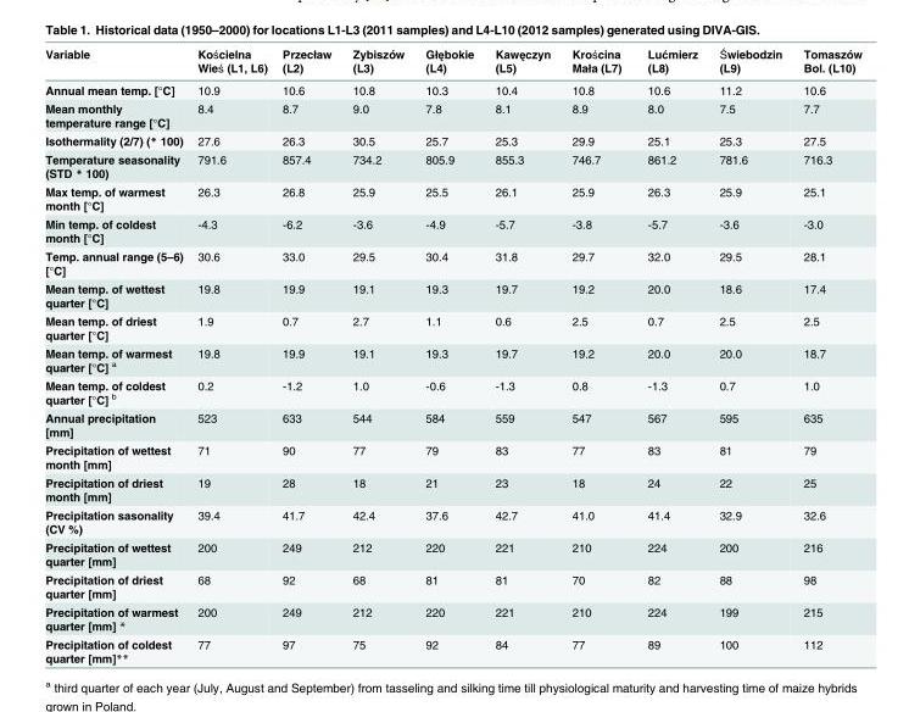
<table><thead><tr><td>Variable</td><td>Kościelna Wieś (L1, L6)</td><td>Przecław (L2)</td><td>Zybiszów (L3)</td><td>Głębokie (L4)</td><td>Kawęczyn (L5)</td><td>Krościna Mała (L7)</td><td>Lućmierz (L8)</td><td>Świebodzin (L9)</td><td>Tomaszów Bol. (L10)</td></tr></thead><tbody><tr><td>Annual mean temp. [°C]</td><td>10.9</td><td>10.6</td><td>10.8</td><td>10.3</td><td>10.4</td><td>10.8</td><td>10.6</td><td>11.2</td><td>10.6</td></tr><tr><td>Mean monthly temperature range [°C]</td><td>8.4</td><td>8.7</td><td>9.0</td><td>7.8</td><td>8.1</td><td>8.9</td><td>8.0</td><td>7.5</td><td>7.7</td></tr><tr><td>Isothermality (2/7) (* 100)</td><td>27.6</td><td>26.3</td><td>30.5</td><td>25.7</td><td>25.3</td><td>29.9</td><td>25.1</td><td>25.3</td><td>27.5</td></tr><tr><td>Temperature seasonality (STD * 100)</td><td>791.6</td><td>857.4</td><td>734.2</td><td>805.9</td><td>855.3</td><td>746.7</td><td>861.2</td><td>781.6</td><td>716.3</td></tr><tr><td>Max temp. of warmest month [°C]</td><td>26.3</td><td>26.8</td><td>25.9</td><td>25.5</td><td>26.1</td><td>25.9</td><td>26.3</td><td>25.9</td><td>25.1</td></tr><tr><td>Min temp. of coldest month [°C]</td><td>-4.3</td><td>-6.2</td><td>-3.6</td><td>-4.9</td><td>-5.7</td><td>-3.8</td><td>-5.7</td><td>-3.6</td><td>-3.0</td></tr><tr><td>Temp. annual range (5–6) [°C]</td><td>30.6</td><td>33.0</td><td>29.5</td><td>30.4</td><td>31.8</td><td>29.7</td><td>32.0</td><td>29.5</td><td>28.1</td></tr><tr><td>Mean temp. of wettest quarter [°C]</td><td>19.8</td><td>19.9</td><td>19.1</td><td>19.3</td><td>19.7</td><td>19.2</td><td>20.0</td><td>18.6</td><td>17.4</td></tr><tr><td>Mean temp. of driest quarter [°C]</td><td>1.9</td><td>0.7</td><td>2.7</td><td>1.1</td><td>0.6</td><td>2.5</td><td>0.7</td><td>2.5</td><td>2.5</td></tr><tr><td>Mean temp. of warmest quarter [°C] <sup>a</sup></td><td>19.8</td><td>19.9</td><td>19.1</td><td>19.3</td><td>19.7</td><td>19.2</td><td>20.0</td><td>20.0</td><td>18.7</td></tr><tr><td>Mean temp. of coldest quarter [°C] <sup>b</sup></td><td>0.2</td><td>-1.2</td><td>1.0</td><td>-0.6</td><td>-1.3</td><td>0.8</td><td>-1.3</td><td>0.7</td><td>1.0</td></tr><tr><td>Annual precipitation [mm]</td><td>523</td><td>633</td><td>544</td><td>584</td><td>559</td><td>547</td><td>567</td><td>595</td><td>635</td></tr><tr><td>Precipitation of wettest month [mm]</td><td>71</td><td>90</td><td>77</td><td>79</td><td>83</td><td>77</td><td>83</td><td>81</td><td>79</td></tr><tr><td>Precipitation of driest month [mm]</td><td>19</td><td>28</td><td>18</td><td>21</td><td>23</td><td>18</td><td>24</td><td>22</td><td>25</td></tr><tr><td>Precipitation sasonality (CV %)</td><td>39.4</td><td>41.7</td><td>42.4</td><td>37.6</td><td>42.7</td><td>41.0</td><td>41.4</td><td>32.9</td><td>32.6</td></tr><tr><td>Precipitation of wettest quarter [mm]</td><td>200</td><td>249</td><td>212</td><td>220</td><td>221</td><td>210</td><td>224</td><td>200</td><td>216</td></tr><tr><td>Precipitation of driest quarter [mm]</td><td>68</td><td>92</td><td>68</td><td>81</td><td>81</td><td>70</td><td>82</td><td>88</td><td>98</td></tr><tr><td>Precipitation of warmest quarter [mm] *</td><td>200</td><td>249</td><td>212</td><td>220</td><td>221</td><td>210</td><td>224</td><td>199</td><td>215</td></tr><tr><td>Precipitation of coldest quarter [mm]**</td><td>77</td><td>97</td><td>75</td><td>92</td><td>84</td><td>77</td><td>89</td><td>100</td><td>112</td></tr></tbody></table>